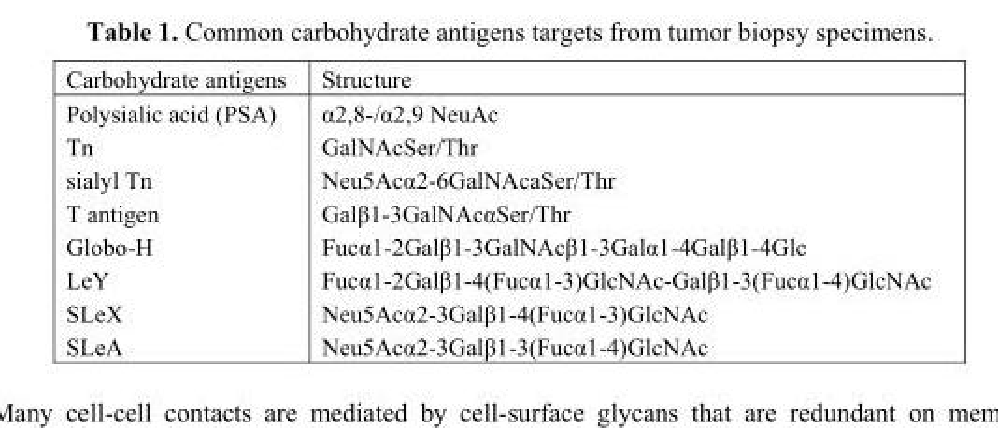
<table><tbody><tr><td>Carbohydrate antigens</td><td>Structure</td></tr><tr><td>Polysialic acid (PSA)</td><td>α2,8-/α2,9 NeuAc</td></tr><tr><td>Tn</td><td>GalNAcSer/Thr</td></tr><tr><td>sialyl Tn</td><td>Neu5Acα2-6GalNAcaSer/Thr</td></tr><tr><td>T antigen</td><td>Galβ1-3GalNAcαSer/Thr</td></tr><tr><td>Globo-H</td><td>Fucα1-2Galβ1-3GalNAcβ1-3Galα1-4Galβ1-4Glc</td></tr><tr><td>LeY</td><td>Fucα1-2Galβ1-4(Fucα1-3)GlcNAc-Galβ1-3(Fucα1-4)GlcNAc</td></tr><tr><td>SLeX</td><td>Neu5Acα2-3Galβ1-4(Fucα1-3)GlcNAc</td></tr><tr><td>SLeA</td><td>Neu5Acα2-3Galβ1-3(Fucα1-4)GlcNAc</td></tr></tbody></table>